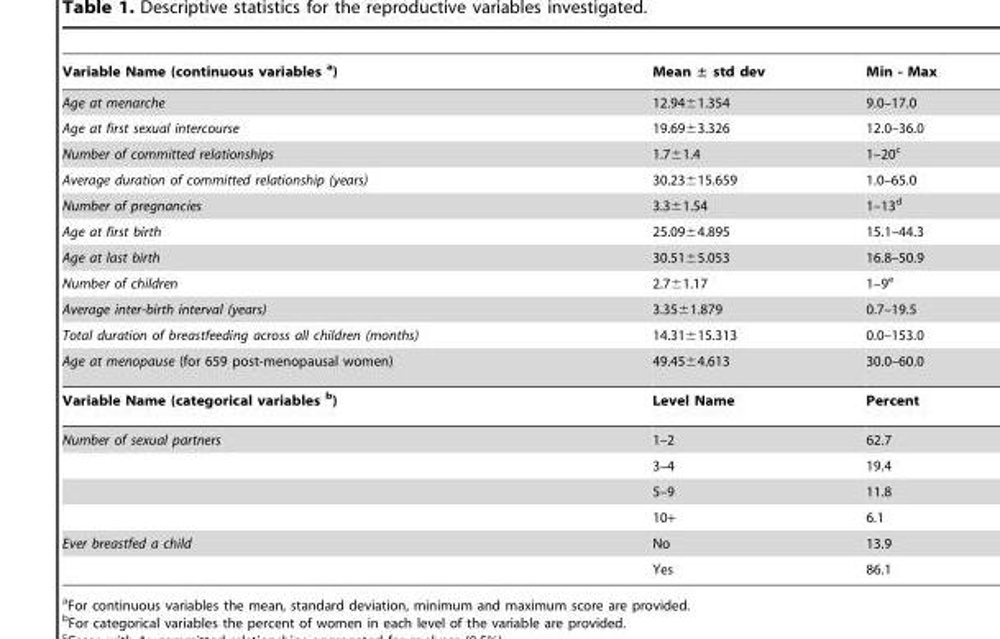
<table><thead><tr><td>Variable Name (continuous variables a)</td><td>Mean ± std dev</td><td>Min - Max</td></tr></thead><tbody><tr><td>Age at menarche</td><td>12.94±1.354</td><td>9.0–17.0</td></tr><tr><td>Age at first sexual intercourse</td><td>19.69±3.326</td><td>12.0–36.0</td></tr><tr><td>Number of committed relationships</td><td>1.7±1.4</td><td>1–20<sup>c</sup></td></tr><tr><td>Average duration of committed relationship (years)</td><td>30.23±15.659</td><td>1.0–65.0</td></tr><tr><td>Number of pregnancies</td><td>3.3±1.54</td><td>1–13<sup>d</sup></td></tr><tr><td>Age at first birth</td><td>25.09±4.895</td><td>15.1–44.3</td></tr><tr><td>Age at last birth</td><td>30.51±5.053</td><td>16.8–50.9</td></tr><tr><td>Number of children</td><td>2.7±1.17</td><td>1–9<sup>e</sup></td></tr><tr><td>Average inter-birth interval (years)</td><td>3.35±1.879</td><td>0.7–19.5</td></tr><tr><td>Total duration of breastfeeding across all children (months)</td><td>14.31±15.313</td><td>0.0–153.0</td></tr><tr><td>Age at menopause (for 659 post-menopausal women)</td><td>49.45±4.613</td><td>30.0–60.0</td></tr><tr><td>Variable Name (categorical variables b)</td><td>Level Name</td><td>Percent</td></tr><tr><td rowspan="4">Number of sexual partners</td><td>1–2</td><td>62.7</td></tr><tr><td>3–4</td><td>19.4</td></tr><tr><td>5–9</td><td>11.8</td></tr><tr><td>10+</td><td>6.1</td></tr><tr><td rowspan="2">Ever breastfed a child</td><td>No</td><td>13.9</td></tr><tr><td>Yes</td><td>86.1</td></tr></tbody></table>